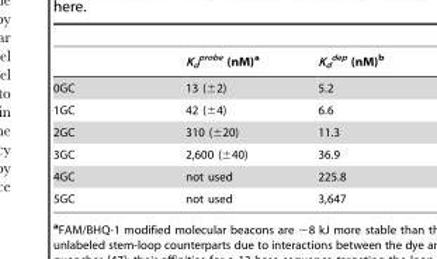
<table><thead><tr><td></td><td>K<sub>d</sub> <sup>probe</sup> (nM)<sup>a</sup></td><td>K<sub>d</sub> <sup>dep</sup> (nM)<sup>b</sup></td></tr></thead><tbody><tr><td>0GC</td><td>13 (±2)</td><td>5.2</td></tr><tr><td>1GC</td><td>42 (±4)</td><td>6.6</td></tr><tr><td>2GC</td><td>310 (±20)</td><td>11.3</td></tr><tr><td>3GC</td><td>2,600 (±40)</td><td>36.9</td></tr><tr><td>4GC</td><td>not used</td><td>225.8</td></tr><tr><td>5GC</td><td>not used</td><td>3,647</td></tr></tbody></table>